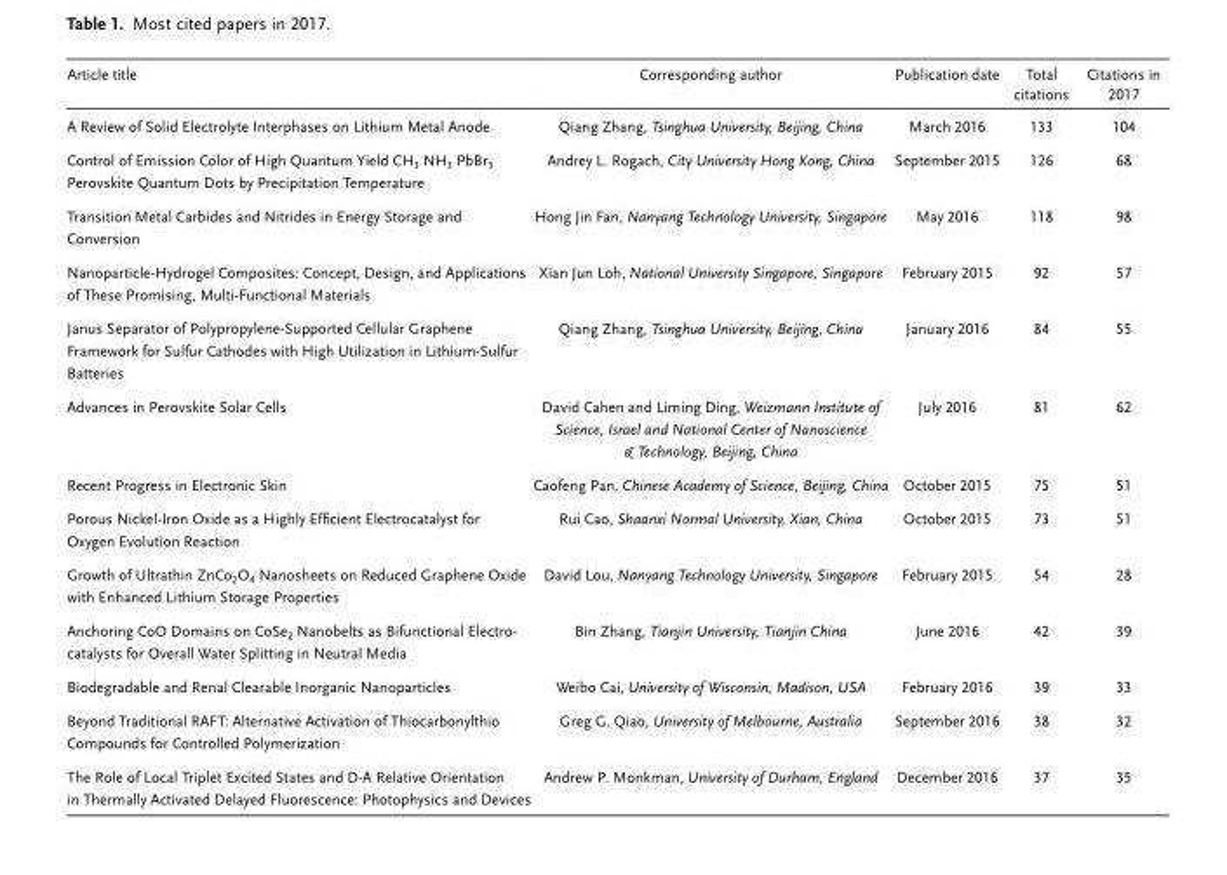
<table><thead><tr><td>Article title</td><td>Corresponding author</td><td>Publication date</td><td>Total citations</td><td>Citations in 2017</td></tr></thead><tbody><tr><td>A Review of Solid Electrolyte Interphases on Lithium Metal Anode</td><td>Qiang Zhang, Tsinghua University, Beijing, China</td><td>March 2016</td><td>133</td><td>104</td></tr><tr><td>Control of Emission Color of High Quantum Yield CH<sub>3</sub> NH<sub>3</sub> PbBr<sub>3</sub> Perovskite Quantum Dots by Precipitation Temperature</td><td>Andrey L. Rogach, City University Hong Kong, China</td><td>September 2015</td><td>126</td><td>68</td></tr><tr><td>Transition Metal Carbides and Nitrides in Energy Storage and Conversion</td><td>Hong Jin Fan, Nanyang Technology University, Singapore</td><td>May 2016</td><td>118</td><td>98</td></tr><tr><td>Nanoparticle-Hydrogel Composites: Concept, Design, and Applications of These Promising, Multi-Functional Materials</td><td>Xian Jun Loh, National University Singapore, Singapore</td><td>February 2015</td><td>92</td><td>57</td></tr><tr><td>Janus Separator of Polypropylene-Supported Cellular Graphene Framework for Sulfur Cathodes with High Utilization in Lithium-Sulfur Batteries</td><td>Qiang Zhang, Tsinghua University, Beijing, China</td><td>January 2016</td><td>84</td><td>55</td></tr><tr><td>Advances in Perovskite Solar Cells</td><td>David Cahen and Liming Ding, Weizmann Institute of Science, Israel and National Center of Nanoscience &amp; Technology, Beijing, China</td><td>July 2016</td><td>81</td><td>62</td></tr><tr><td>Recent Progress in Electronic Skin</td><td>Caofeng Pan, Chinese Academy of Science, Beijing, China</td><td>October 2015</td><td>75</td><td>51</td></tr><tr><td>Porous Nickel-Iron Oxide as a Highly Efficient Electrocatalyst for Oxygen Evolution Reaction</td><td>Rui Cao, Shaanxi Normal University, Xian, China</td><td>October 2015</td><td>73</td><td>51</td></tr><tr><td>Growth of Ultrathin ZnCo<sub>2</sub>O<sub>4</sub> Nanosheets on Reduced Graphene Oxide with Enhanced Lithium Storage Properties</td><td>David Lou, Nanyang Technology University, Singapore</td><td>February 2015</td><td>54</td><td>28</td></tr><tr><td>Anchoring CoO Domains on CoSe2 Nanobelts as Bifunctional Electro- catalysts for Overall Water Splitting in Neutral Media</td><td>Bin Zhang, Tianjin University, Tianjin China</td><td>June 2016</td><td>42</td><td>39</td></tr><tr><td>Biodegradable and Renal Clearable Inorganic Nanoparticles</td><td>Weibo Cai, University of Wisconsin, Madison, USA</td><td>February 2016</td><td>39</td><td>33</td></tr><tr><td>Beyond Traditional RAFT: Alternative Activation of Thiocarbonylthio Compounds for Controlled Polymerization</td><td>Greg G. Qiao, University of Melbourne, Australia</td><td>September 2016</td><td>38</td><td>32</td></tr><tr><td>The Role of Local Triplet Excited States and D-A Relative Orientation in Thermally Activated Delayed Fluorescence: Photophysics and Devices</td><td>Andrew P. Monkman, University of Durham, England</td><td>December 2016</td><td>37</td><td>35</td></tr></tbody></table>